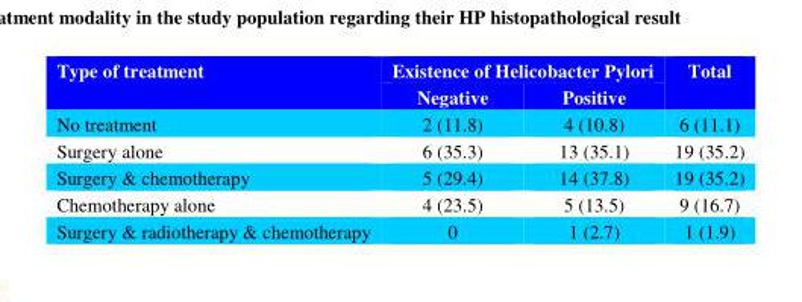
<table><thead><tr><td rowspan="2">Type of treatment</td><td colspan="2">Existence of Helicobacter Pylori</td><td rowspan="2">Total</td></tr><tr><td>Negative</td><td>Positive</td></tr></thead><tbody><tr><td>No treatment</td><td>2 (11.8)</td><td>4 (10.8)</td><td>6 (11.1)</td></tr><tr><td>Surgery alone</td><td>6 (35.3)</td><td>13 (35.1)</td><td>19 (35.2)</td></tr><tr><td>Surgery &amp; chemotherapy</td><td>5 (29.4)</td><td>14 (37.8)</td><td>19 (35.2)</td></tr><tr><td>Chemotherapy alone</td><td>4 (23.5)</td><td>5 (13.5)</td><td>9 (16.7)</td></tr><tr><td>Surgery &amp; radiotherapy &amp; chemotherapy</td><td>0</td><td>1 (2.7)</td><td>1 (1.9)</td></tr></tbody></table>